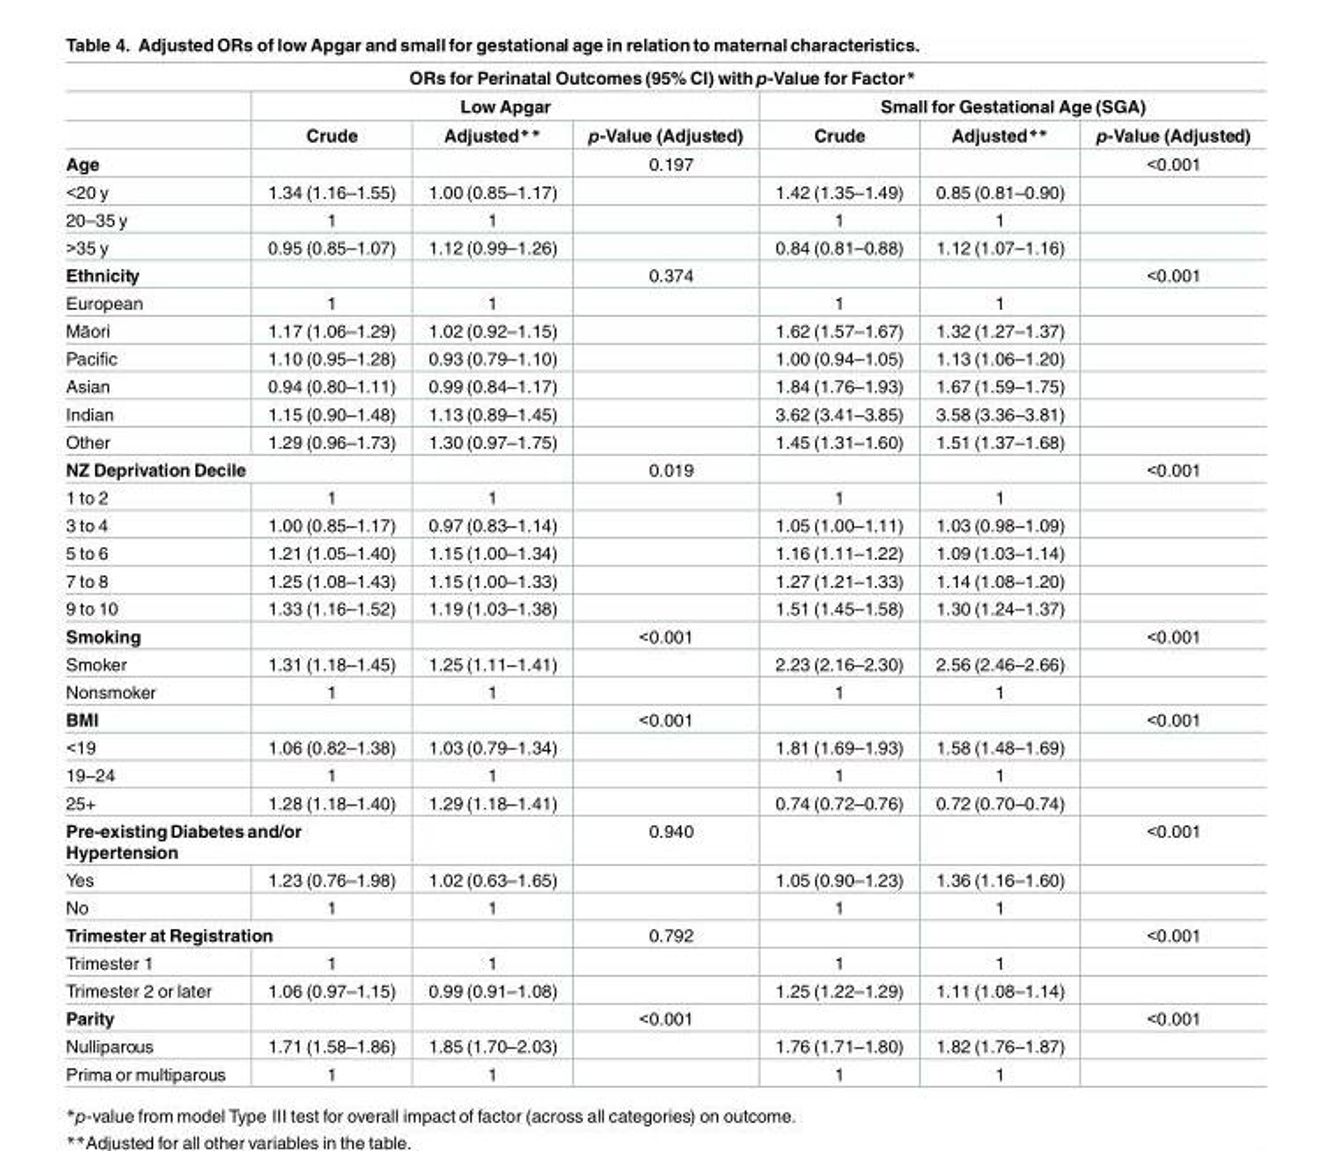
<table><thead><tr><td colspan="7">ORs for Perinatal Outcomes (95% CI) with p-Value for Factor*</td></tr><tr><td rowspan="2"></td><td colspan="3">Low Apgar</td><td colspan="3">Small for Gestational Age (SGA)</td></tr><tr><td>Crude</td><td>Adjusted**</td><td>p-Value (Adjusted)</td><td>Crude</td><td>Adjusted**</td><td>p-Value (Adjusted)</td></tr></thead><tbody><tr><td>Age</td><td></td><td></td><td>0.197</td><td></td><td></td><td>&lt;0.001</td></tr><tr><td>&lt;20 y</td><td>1.34 (1.16–1.55)</td><td>1.00 (0.85–1.17)</td><td></td><td>1.42 (1.35–1.49)</td><td>0.85 (0.81–0.90)</td><td></td></tr><tr><td>20–35 y</td><td>1</td><td>1</td><td></td><td>1</td><td>1</td><td></td></tr><tr><td>&gt;35 y</td><td>0.95 (0.85–1.07)</td><td>1.12 (0.99–1.26)</td><td></td><td>0.84 (0.81–0.88)</td><td>1.12 (1.07–1.16)</td><td></td></tr><tr><td>Ethnicity</td><td></td><td></td><td>0.374</td><td></td><td></td><td>&lt;0.001</td></tr><tr><td>European</td><td>1</td><td>1</td><td></td><td>1</td><td>1</td><td></td></tr><tr><td>Māori</td><td>1.17 (1.06–1.29)</td><td>1.02 (0.92–1.15)</td><td></td><td>1.62 (1.57–1.67)</td><td>1.32 (1.27–1.37)</td><td></td></tr><tr><td>Pacific</td><td>1.10 (0.95–1.28)</td><td>0.93 (0.79–1.10)</td><td></td><td>1.00 (0.94–1.05)</td><td>1.13 (1.06–1.20)</td><td></td></tr><tr><td>Asian</td><td>0.94 (0.80–1.11)</td><td>0.99 (0.84–1.17)</td><td></td><td>1.84 (1.76–1.93)</td><td>1.67 (1.59–1.75)</td><td></td></tr><tr><td>Indian</td><td>1.15 (0.90–1.48)</td><td>1.13 (0.89–1.45)</td><td></td><td>3.62 (3.41–3.85)</td><td>3.58 (3.36–3.81)</td><td></td></tr><tr><td>Other</td><td>1.29 (0.96–1.73)</td><td>1.30 (0.97–1.75)</td><td></td><td>1.45 (1.31–1.60)</td><td>1.51 (1.37–1.68)</td><td></td></tr><tr><td colspan="2">NZ Deprivation Decile</td><td></td><td>0.019</td><td></td><td></td><td>&lt;0.001</td></tr><tr><td>1 to 2</td><td>1</td><td>1</td><td></td><td>1</td><td>1</td><td></td></tr><tr><td>3 to 4</td><td>1.00 (0.85–1.17)</td><td>0.97 (0.83–1.14)</td><td></td><td>1.05 (1.00–1.11)</td><td>1.03 (0.98–1.09)</td><td></td></tr><tr><td>5 to 6</td><td>1.21 (1.05–1.40)</td><td>1.15 (1.00–1.34)</td><td></td><td>1.16 (1.11–1.22)</td><td>1.09 (1.03–1.14)</td><td></td></tr><tr><td>7 to 8</td><td>1.25 (1.08–1.43)</td><td>1.15 (1.00–1.33)</td><td></td><td>1.27 (1.21–1.33)</td><td>1.14 (1.08–1.20)</td><td></td></tr><tr><td>9 to 10</td><td>1.33 (1.16–1.52)</td><td>1.19 (1.03–1.38)</td><td></td><td>1.51 (1.45–1.58)</td><td>1.30 (1.24–1.37)</td><td></td></tr><tr><td>Smoking</td><td></td><td></td><td>&lt;0.001</td><td></td><td></td><td>&lt;0.001</td></tr><tr><td>Smoker</td><td>1.31 (1.18–1.45)</td><td>1.25 (1.11–1.41)</td><td></td><td>2.23 (2.16–2.30)</td><td>2.56 (2.46–2.66)</td><td></td></tr><tr><td>Nonsmoker</td><td>1</td><td>1</td><td></td><td>1</td><td>1</td><td></td></tr><tr><td>BMI</td><td></td><td></td><td>&lt;0.001</td><td></td><td></td><td>&lt;0.001</td></tr><tr><td>&lt;19</td><td>1.06 (0.82–1.38)</td><td>1.03 (0.79–1.34)</td><td></td><td>1.81 (1.69–1.93)</td><td>1.58 (1.48–1.69)</td><td></td></tr><tr><td>19–24</td><td>1</td><td>1</td><td></td><td>1</td><td>1</td><td></td></tr><tr><td>25+</td><td>1.28 (1.18–1.40)</td><td>1.29 (1.18–1.41)</td><td></td><td>0.74 (0.72–0.76)</td><td>0.72 (0.70–0.74)</td><td></td></tr><tr><td colspan="2">Pre-existing Diabetes and/or Hypertension</td><td></td><td>0.940</td><td></td><td></td><td>&lt;0.001</td></tr><tr><td>Yes</td><td>1.23 (0.76–1.98)</td><td>1.02 (0.63–1.65)</td><td></td><td>1.05 (0.90–1.23)</td><td>1.36 (1.16–1.60)</td><td></td></tr><tr><td>No</td><td>1</td><td>1</td><td></td><td>1</td><td>1</td><td></td></tr><tr><td colspan="2">Trimester at Registration</td><td></td><td>0.792</td><td></td><td></td><td>&lt;0.001</td></tr><tr><td>Trimester 1</td><td>1</td><td>1</td><td></td><td>1</td><td>1</td><td></td></tr><tr><td>Trimester 2 or later</td><td>1.06 (0.97–1.15)</td><td>0.99 (0.91–1.08)</td><td></td><td>1.25 (1.22–1.29)</td><td>1.11 (1.08–1.14)</td><td></td></tr><tr><td>Parity</td><td></td><td></td><td>&lt;0.001</td><td></td><td></td><td>&lt;0.001</td></tr><tr><td>Nulliparous</td><td>1.71 (1.58–1.86)</td><td>1.85 (1.70–2.03)</td><td></td><td>1.76 (1.71–1.80)</td><td>1.82 (1.76–1.87)</td><td></td></tr><tr><td>Prima or multiparous</td><td>1</td><td>1</td><td></td><td>1</td><td>1</td><td></td></tr></tbody></table>